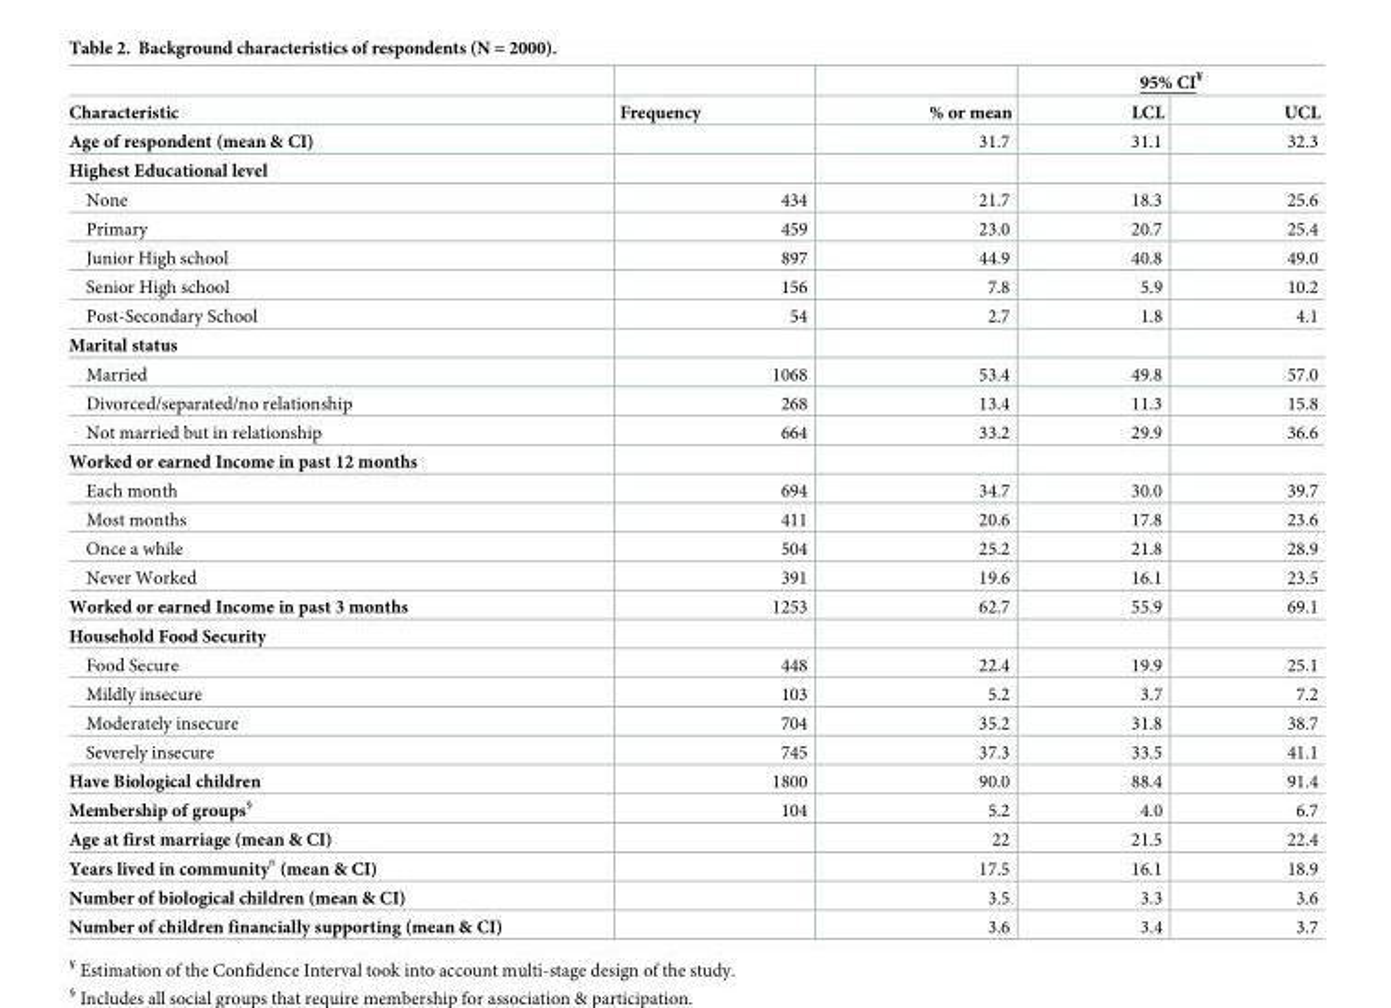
<table><thead><tr><td rowspan="2">Characteristic</td><td rowspan="2">Frequency</td><td rowspan="2">% or mean</td><td colspan="2">95% CI<sup>¥</sup></td></tr><tr><td>LCL</td><td>UCL</td></tr></thead><tbody><tr><td>Age of respondent (mean &amp; CI)</td><td></td><td>31.7</td><td>31.1</td><td>32.3</td></tr><tr><td colspan="5">Highest Educational level</td></tr><tr><td>None</td><td>434</td><td>21.7</td><td>18.3</td><td>25.6</td></tr><tr><td>Primary</td><td>459</td><td>23.0</td><td>20.7</td><td>25.4</td></tr><tr><td>Junior High school</td><td>897</td><td>44.9</td><td>40.8</td><td>49.0</td></tr><tr><td>Senior High school</td><td>156</td><td>7.8</td><td>5.9</td><td>10.2</td></tr><tr><td>Post-Secondary School</td><td>54</td><td>2.7</td><td>1.8</td><td>4.1</td></tr><tr><td colspan="5">Marital status</td></tr><tr><td>Married</td><td>1068</td><td>53.4</td><td>49.8</td><td>57.0</td></tr><tr><td>Divorced/separated/no relationship</td><td>268</td><td>13.4</td><td>11.3</td><td>15.8</td></tr><tr><td>Not married but in relationship</td><td>664</td><td>33.2</td><td>29.9</td><td>36.6</td></tr><tr><td colspan="5">Worked or earned Income in past 12 months</td></tr><tr><td>Each month</td><td>694</td><td>34.7</td><td>30.0</td><td>39.7</td></tr><tr><td>Most months</td><td>411</td><td>20.6</td><td>17.8</td><td>23.6</td></tr><tr><td>Once a while</td><td>504</td><td>25.2</td><td>21.8</td><td>28.9</td></tr><tr><td>Never Worked</td><td>391</td><td>19.6</td><td>16.1</td><td>23.5</td></tr><tr><td>Worked or earned Income in past 3 months</td><td>1253</td><td>62.7</td><td>55.9</td><td>69.1</td></tr><tr><td colspan="5">Household Food Security</td></tr><tr><td>Food Secure</td><td>448</td><td>22.4</td><td>19.9</td><td>25.1</td></tr><tr><td>Mildly insecure</td><td>103</td><td>5.2</td><td>3.7</td><td>7.2</td></tr><tr><td>Moderately insecure</td><td>704</td><td>35.2</td><td>31.8</td><td>38.7</td></tr><tr><td>Severely insecure</td><td>745</td><td>37.3</td><td>33.5</td><td>41.1</td></tr><tr><td>Have Biological children</td><td>1800</td><td>90.0</td><td>88.4</td><td>91.4</td></tr><tr><td>Membership of groups<sup>§</sup></td><td>104</td><td>5.2</td><td>4.0</td><td>6.7</td></tr><tr><td>Age at first marriage (mean &amp; CI)</td><td></td><td>22</td><td>21.5</td><td>22.4</td></tr><tr><td>Years lived in community<sup>¤</sup> (mean &amp; CI)</td><td></td><td>17.5</td><td>16.1</td><td>18.9</td></tr><tr><td>Number of biological children (mean &amp; CI)</td><td></td><td>3.5</td><td>3.3</td><td>3.6</td></tr><tr><td>Number of children financially supporting (mean &amp; CI)</td><td></td><td>3.6</td><td>3.4</td><td>3.7</td></tr></tbody></table>